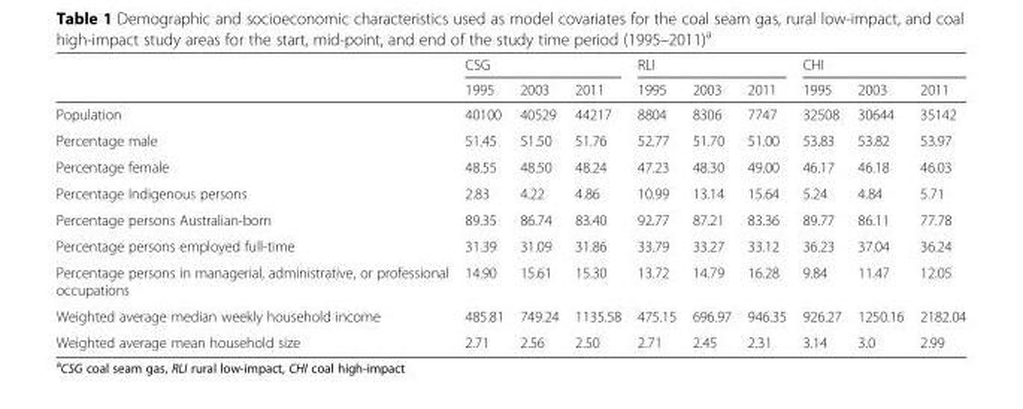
<table><thead><tr><td rowspan="2"></td><td colspan="3">CSG</td><td colspan="3">RLI</td><td colspan="3">CHI</td></tr><tr><td>1995</td><td>2003</td><td>2011</td><td>1995</td><td>2003</td><td>2011</td><td>1995</td><td>2003</td><td>2011</td></tr></thead><tbody><tr><td>Population</td><td>40100</td><td>40529</td><td>44217</td><td>8804</td><td>8306</td><td>7747</td><td>32508</td><td>30644</td><td>35142</td></tr><tr><td>Percentage male</td><td>51.45</td><td>51.50</td><td>51.76</td><td>52.77</td><td>51.70</td><td>51.00</td><td>53.83</td><td>53.82</td><td>53.97</td></tr><tr><td>Percentage female</td><td>48.55</td><td>48.50</td><td>48.24</td><td>47.23</td><td>48.30</td><td>49.00</td><td>46.17</td><td>46.18</td><td>46.03</td></tr><tr><td>Percentage Indigenous persons</td><td>2.83</td><td>4.22</td><td>4.86</td><td>10.99</td><td>13.14</td><td>15.64</td><td>5.24</td><td>4.84</td><td>5.71</td></tr><tr><td>Percentage persons Australian-born</td><td>89.35</td><td>86.74</td><td>83.40</td><td>92.77</td><td>87.21</td><td>83.36</td><td>89.77</td><td>86.11</td><td>77.78</td></tr><tr><td>Percentage persons employed full-time</td><td>31.39</td><td>31.09</td><td>31.86</td><td>33.79</td><td>33.27</td><td>33.12</td><td>36.23</td><td>37.04</td><td>36.24</td></tr><tr><td>Percentage persons in managerial, administrative, or professional occupations</td><td>14.90</td><td>15.61</td><td>15.30</td><td>13.72</td><td>14.79</td><td>16.28</td><td>9.84</td><td>11.47</td><td>12.05</td></tr><tr><td>Weighted average median weekly household income</td><td>485.81</td><td>749.24</td><td>1135.58</td><td>475.15</td><td>696.97</td><td>946.35</td><td>926.27</td><td>1250.16</td><td>2182.04</td></tr><tr><td>Weighted average mean household size</td><td>2.71</td><td>2.56</td><td>2.50</td><td>2.71</td><td>2.45</td><td>2.31</td><td>3.14</td><td>3.0</td><td>2.99</td></tr></tbody></table>